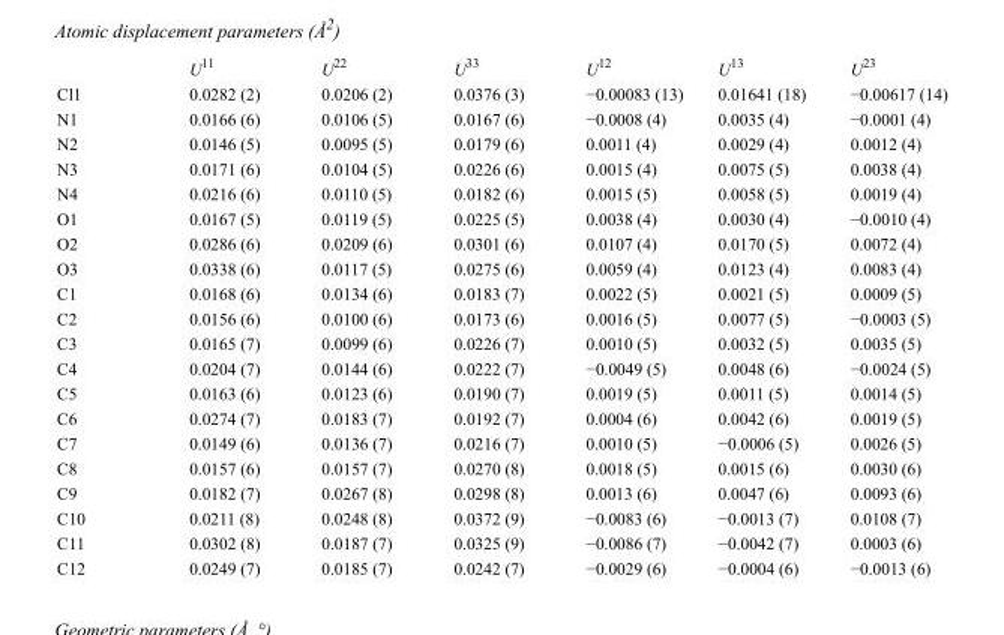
<table><thead><tr><td></td><td>U<sup>11</sup></td><td>U<sup>22</sup></td><td>U<sup>33</sup></td><td>U<sup>12</sup></td><td>U<sup>13</sup></td><td>U<sup>23</sup></td></tr></thead><tbody><tr><td>Cl1</td><td>0.0282 (2)</td><td>0.0206 (2)</td><td>0.0376 (3)</td><td>−0.00083 (13)</td><td>0.01641 (18)</td><td>−0.00617 (14)</td></tr><tr><td>N1</td><td>0.0166 (6)</td><td>0.0106 (5)</td><td>0.0167 (6)</td><td>−0.0008 (4)</td><td>0.0035 (4)</td><td>−0.0001 (4)</td></tr><tr><td>N2</td><td>0.0146 (5)</td><td>0.0095 (5)</td><td>0.0179 (6)</td><td>0.0011 (4)</td><td>0.0029 (4)</td><td>0.0012 (4)</td></tr><tr><td>N3</td><td>0.0171 (6)</td><td>0.0104 (5)</td><td>0.0226 (6)</td><td>0.0015 (4)</td><td>0.0075 (5)</td><td>0.0038 (4)</td></tr><tr><td>N4</td><td>0.0216 (6)</td><td>0.0110 (5)</td><td>0.0182 (6)</td><td>0.0015 (5)</td><td>0.0058 (5)</td><td>0.0019 (4)</td></tr><tr><td>O1</td><td>0.0167 (5)</td><td>0.0119 (5)</td><td>0.0225 (5)</td><td>0.0038 (4)</td><td>0.0030 (4)</td><td>−0.0010 (4)</td></tr><tr><td>O2</td><td>0.0286 (6)</td><td>0.0209 (6)</td><td>0.0301 (6)</td><td>0.0107 (4)</td><td>0.0170 (5)</td><td>0.0072 (4)</td></tr><tr><td>O3</td><td>0.0338 (6)</td><td>0.0117 (5)</td><td>0.0275 (6)</td><td>0.0059 (4)</td><td>0.0123 (4)</td><td>0.0083 (4)</td></tr><tr><td>C1</td><td>0.0168 (6)</td><td>0.0134 (6)</td><td>0.0183 (7)</td><td>0.0022 (5)</td><td>0.0021 (5)</td><td>0.0009 (5)</td></tr><tr><td>C2</td><td>0.0156 (6)</td><td>0.0100 (6)</td><td>0.0173 (6)</td><td>0.0016 (5)</td><td>0.0077 (5)</td><td>−0.0003 (5)</td></tr><tr><td>C3</td><td>0.0165 (7)</td><td>0.0099 (6)</td><td>0.0226 (7)</td><td>0.0010 (5)</td><td>0.0032 (5)</td><td>0.0035 (5)</td></tr><tr><td>C4</td><td>0.0204 (7)</td><td>0.0144 (6)</td><td>0.0222 (7)</td><td>−0.0049 (5)</td><td>0.0048 (6)</td><td>−0.0024 (5)</td></tr><tr><td>C5</td><td>0.0163 (6)</td><td>0.0123 (6)</td><td>0.0190 (7)</td><td>0.0019 (5)</td><td>0.0011 (5)</td><td>0.0014 (5)</td></tr><tr><td>C6</td><td>0.0274 (7)</td><td>0.0183 (7)</td><td>0.0192 (7)</td><td>0.0004 (6)</td><td>0.0042 (6)</td><td>0.0019 (5)</td></tr><tr><td>C7</td><td>0.0149 (6)</td><td>0.0136 (7)</td><td>0.0216 (7)</td><td>0.0010 (5)</td><td>−0.0006 (5)</td><td>0.0026 (5)</td></tr><tr><td>C8</td><td>0.0157 (6)</td><td>0.0157 (7)</td><td>0.0270 (8)</td><td>0.0018 (5)</td><td>0.0015 (6)</td><td>0.0030 (6)</td></tr><tr><td>C9</td><td>0.0182 (7)</td><td>0.0267 (8)</td><td>0.0298 (8)</td><td>0.0013 (6)</td><td>0.0047 (6)</td><td>0.0093 (6)</td></tr><tr><td>C10</td><td>0.0211 (8)</td><td>0.0248 (8)</td><td>0.0372 (9)</td><td>−0.0083 (6)</td><td>−0.0013 (7)</td><td>0.0108 (7)</td></tr><tr><td>C11</td><td>0.0302 (8)</td><td>0.0187 (7)</td><td>0.0325 (9)</td><td>−0.0086 (7)</td><td>−0.0042 (7)</td><td>0.0003 (6)</td></tr><tr><td>C12</td><td>0.0249 (7)</td><td>0.0185 (7)</td><td>0.0242 (7)</td><td>−0.0029 (6)</td><td>−0.0004 (6)</td><td>−0.0013 (6)</td></tr></tbody></table>